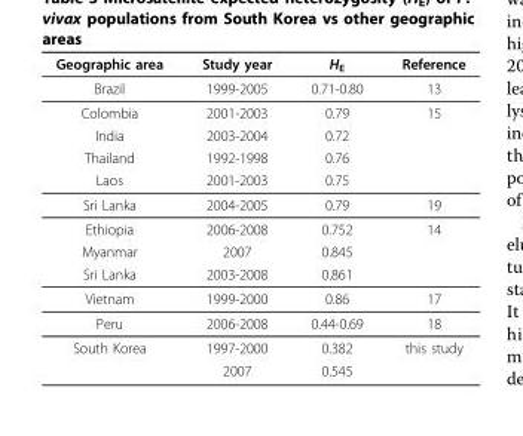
<table><thead><tr><td>Geographic area</td><td>Study year</td><td>H<sub>E</sub></td><td>Reference</td></tr></thead><tbody><tr><td>Brazil</td><td>1999-2005</td><td>0.71-0.80</td><td>13</td></tr><tr><td>Colombia</td><td>2001-2003</td><td>0.79</td><td>15</td></tr><tr><td>India</td><td>2003-2004</td><td>0.72</td><td></td></tr><tr><td>Thailand</td><td>1992-1998</td><td>0.76</td><td></td></tr><tr><td>Laos</td><td>2001-2003</td><td>0.75</td><td></td></tr><tr><td>Sri Lanka</td><td>2004-2005</td><td>0.79</td><td>19</td></tr><tr><td>Ethiopia</td><td>2006-2008</td><td>0.752</td><td>14</td></tr><tr><td>Myanmar</td><td>2007</td><td>0.845</td><td></td></tr><tr><td>Sri Lanka</td><td>2003-2008</td><td>0.861</td><td></td></tr><tr><td>Vietnam</td><td>1999-2000</td><td>0.86</td><td>17</td></tr><tr><td>Peru</td><td>2006-2008</td><td>0.44-0.69</td><td>18</td></tr><tr><td rowspan="2">South Korea</td><td>1997-2000</td><td>0.382</td><td>this study</td></tr><tr><td>2007</td><td>0.545</td><td></td></tr></tbody></table>